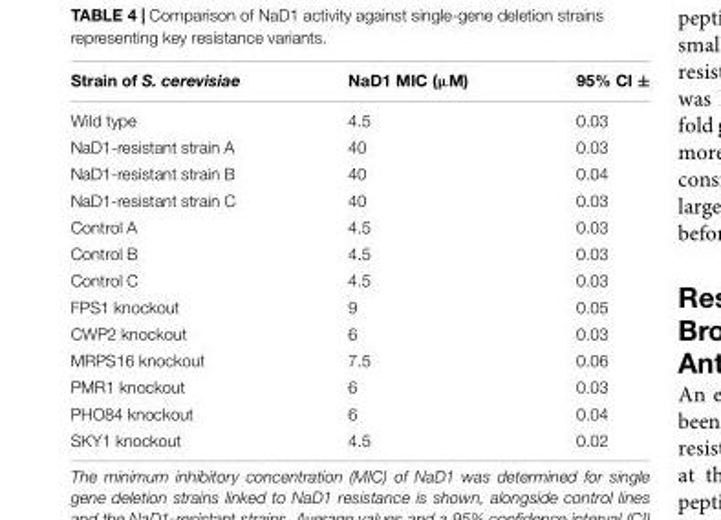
<table><thead><tr><td>Strain of S. cerevisiae</td><td>NaD1 MIC (µM)</td><td>95% CI ±</td></tr></thead><tbody><tr><td>Wild type</td><td>4.5</td><td>0.03</td></tr><tr><td>NaD1-resistant strain A</td><td>40</td><td>0.03</td></tr><tr><td>NaD1-resistant strain B</td><td>40</td><td>0.04</td></tr><tr><td>NaD1-resistant strain C</td><td>40</td><td>0.03</td></tr><tr><td>Control A</td><td>4.5</td><td>0.03</td></tr><tr><td>Control B</td><td>4.5</td><td>0.03</td></tr><tr><td>Control C</td><td>4.5</td><td>0.03</td></tr><tr><td>FPS1 knockout</td><td>9</td><td>0.05</td></tr><tr><td>CWP2 knockout</td><td>6</td><td>0.03</td></tr><tr><td>MRPS16 knockout</td><td>7.5</td><td>0.06</td></tr><tr><td>PMR1 knockout</td><td>6</td><td>0.03</td></tr><tr><td>PHO84 knockout</td><td>6</td><td>0.04</td></tr><tr><td>SKY1 knockout</td><td>4.5</td><td>0.02</td></tr></tbody></table>